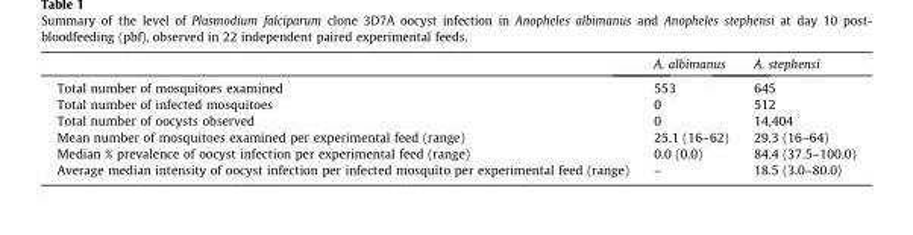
<table><thead><tr><td></td><td>A. albimanus</td><td>A. stephensi</td></tr></thead><tbody><tr><td>Total number of mosquitoes examined</td><td>553</td><td>645</td></tr><tr><td>Total number of infected mosquitoes</td><td>0</td><td>512</td></tr><tr><td>Total number of oocysts observed</td><td>0</td><td>14,404</td></tr><tr><td>Mean number of mosquitoes examined per experimental feed (range)</td><td>25.1 (16–62)</td><td>29.3 (16–64)</td></tr><tr><td>Median % prevalence of oocyst infection per experimental feed (range)</td><td>0.0 (0.0)</td><td>84.4 (37.5–100.0)</td></tr><tr><td>Average median intensity of oocyst infection per infected mosquito per experimental feed (range)</td><td>–</td><td>18.5 (3.0–80.0)</td></tr></tbody></table>